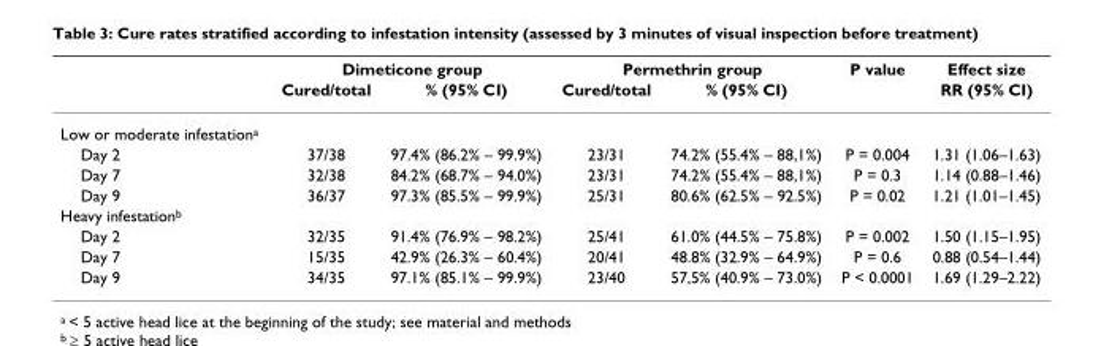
<table><thead><tr><td rowspan="2"></td><td colspan="2">Dimeticone group</td><td colspan="2">Permethrin group</td><td rowspan="2">P value</td><td rowspan="2">Effect size RR (95% CI)</td></tr><tr><td>Cured/total</td><td>% (95% CI)</td><td>Cured/total</td><td>% (95% CI)</td></tr></thead><tbody><tr><td colspan="7">Low or moderate infestation<sup>a</sup></td></tr><tr><td>Day 2</td><td>37/38</td><td>97.4% (86.2% – 99.9%)</td><td>23/31</td><td>74.2% (55.4% – 88,1%)</td><td>P = 0.004</td><td>1.31 (1.06–1.63)</td></tr><tr><td>Day 7</td><td>32/38</td><td>84.2% (68.7% – 94.0%)</td><td>23/31</td><td>74.2% (55.4% – 88,1%)</td><td>P = 0.3</td><td>1.14 (0.88–1.46)</td></tr><tr><td>Day 9</td><td>36/37</td><td>97.3% (85.5% – 99.9%)</td><td>25/31</td><td>80.6% (62.5% – 92.5%)</td><td>P = 0.02</td><td>1.21 (1.01–1.45)</td></tr><tr><td colspan="7">Heavy infestation<sup>b</sup></td></tr><tr><td>Day 2</td><td>32/35</td><td>91.4% (76.9% – 98.2%)</td><td>25/41</td><td>61.0% (44.5% – 75.8%)</td><td>P = 0.002</td><td>1.50 (1.15–1.95)</td></tr><tr><td>Day 7</td><td>15/35</td><td>42.9% (26.3% – 60.4%)</td><td>20/41</td><td>48.8% (32.9% – 64.9%)</td><td>P = 0.6</td><td>0.88 (0.54–1.44)</td></tr><tr><td>Day 9</td><td>34/35</td><td>97.1% (85.1% – 99.9%)</td><td>23/40</td><td>57,5% (40.9% – 73.0%)</td><td>P &lt; 0.0001</td><td>1.69 (1.29–2.22)</td></tr></tbody></table>